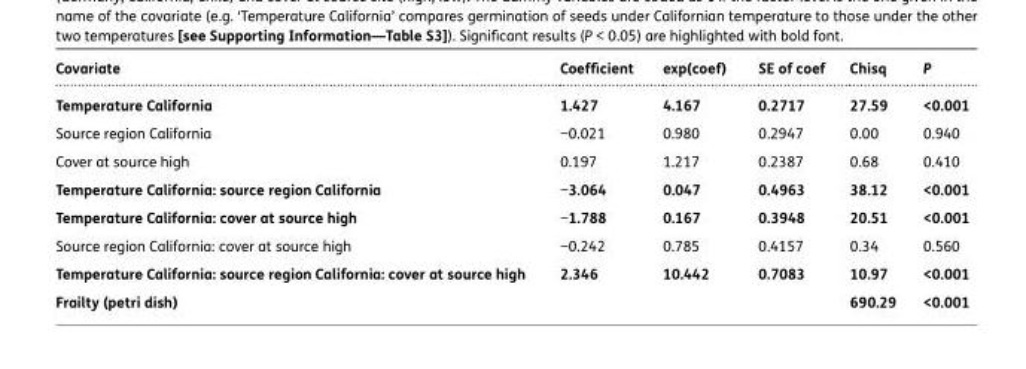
<table><thead><tr><td>Covariate</td><td>Coefficient</td><td>exp(coef)</td><td>SE of coef</td><td>Chisq</td><td>P</td></tr></thead><tbody><tr><td>Temperature California</td><td>1.427</td><td>4.167</td><td>0.2717</td><td>27.59</td><td>&lt;0.001</td></tr><tr><td>Source region California</td><td>−0.021</td><td>0.980</td><td>0.2947</td><td>0.00</td><td>0.940</td></tr><tr><td>Cover at source high</td><td>0.197</td><td>1.217</td><td>0.2387</td><td>0.68</td><td>0.410</td></tr><tr><td>Temperature California: source region California</td><td>−3.064</td><td>0.047</td><td>0.4963</td><td>38.12</td><td>&lt;0.001</td></tr><tr><td>Temperature California: cover at source high</td><td>−1.788</td><td>0.167</td><td>0.3948</td><td>20.51</td><td>&lt;0.001</td></tr><tr><td>Source region California: cover at source high</td><td>−0.242</td><td>0.785</td><td>0.4157</td><td>0.34</td><td>0.560</td></tr><tr><td>Temperature California: source region California: cover at source high</td><td>2.346</td><td>10.442</td><td>0.7083</td><td>10.97</td><td>&lt;0.001</td></tr><tr><td>Frailty (petri dish)</td><td></td><td></td><td></td><td>690.29</td><td>&lt;0.001</td></tr></tbody></table>